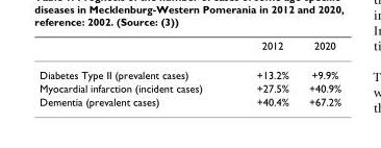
<table><thead><tr><td></td><td>2012</td><td>2020</td></tr></thead><tbody><tr><td>Diabetes Type II (prevalent cases)</td><td>+13.2%</td><td>+9.9%</td></tr><tr><td>Myocardial infarction (incident cases)</td><td>+27.5%</td><td>+40.9%</td></tr><tr><td>Dementia (prevalent cases)</td><td>+40.4%</td><td>+67.2%</td></tr></tbody></table>